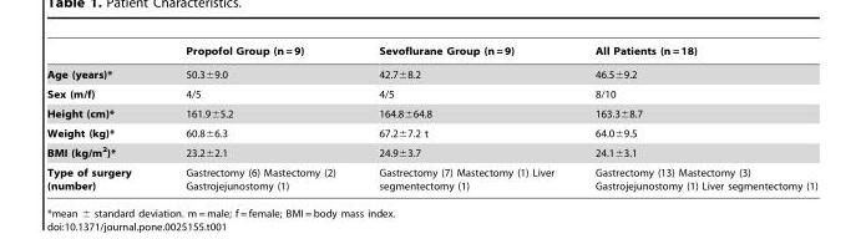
<table><thead><tr><td></td><td>Propofol Group (n = 9)</td><td>Sevoflurane Group (n = 9)</td><td>All Patients (n = 18)</td></tr></thead><tbody><tr><td>Age (years)*</td><td>50.3±9.0</td><td>42.7±8.2</td><td>46.5±9.2</td></tr><tr><td>Sex (m/f)</td><td>4/5</td><td>4/5</td><td>8/10</td></tr><tr><td>Height (cm)*</td><td>161.9±5.2</td><td>164.8±64.8</td><td>163.3±8.7</td></tr><tr><td>Weight (kg)*</td><td>60.8±6.3</td><td>67.2±7.2 t</td><td>64.0±9.5</td></tr><tr><td>BMI (kg/m<sup>2</sup>)*</td><td>23.2±2.1</td><td>24.9±3.7</td><td>24.1±3.1</td></tr><tr><td>Type of surgery (number)</td><td>Gastrectomy (6) Mastectomy (2) Gastrojejunostomy (1)</td><td>Gastrectomy (7) Mastectomy (1) Liver segmentectomy (1)</td><td>Gastrectomy (13) Mastectomy (3) Gastrojejunostomy (1) Liver segmentectomy (1)</td></tr></tbody></table>